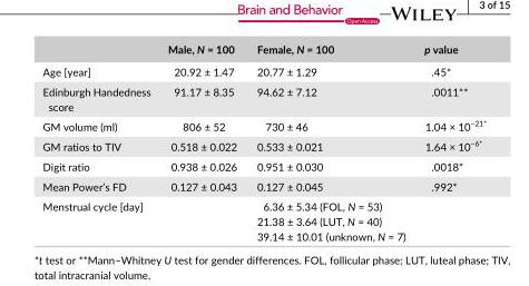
<table><thead><tr><td></td><td>Male, N = 100</td><td>Female, N = 100</td><td>p value</td></tr></thead><tbody><tr><td>Age [year]</td><td>20.92 ± 1.47</td><td>20.77 ± 1.29</td><td>.45*</td></tr><tr><td>Edinburgh Handedness score</td><td>91.17 ± 8.35</td><td>94.62 ± 7.12</td><td>.0011**</td></tr><tr><td>GM volume (ml)</td><td>806 ± 52</td><td>730 ± 46</td><td>1.04 × 10<sup>−21</sup>*</td></tr><tr><td>GM ratios to TIV</td><td>0.518 ± 0.022</td><td>0.533 ± 0.021</td><td>1.64 × 10<sup>−6</sup>*</td></tr><tr><td>Digit ratio</td><td>0.938 ± 0.026</td><td>0.951 ± 0.030</td><td>.0018*</td></tr><tr><td>Mean Power’s FD</td><td>0.127 ± 0.043</td><td>0.127 ± 0.045</td><td>.992*</td></tr><tr><td>Menstrual cycle [day]</td><td></td><td>6.36 ± 5.34 (FOL, N = 53) 21.38 ± 3.64 (LUT, N = 40) 39.14 ± 10.01 (unknown, N = 7)</td><td></td></tr></tbody></table>